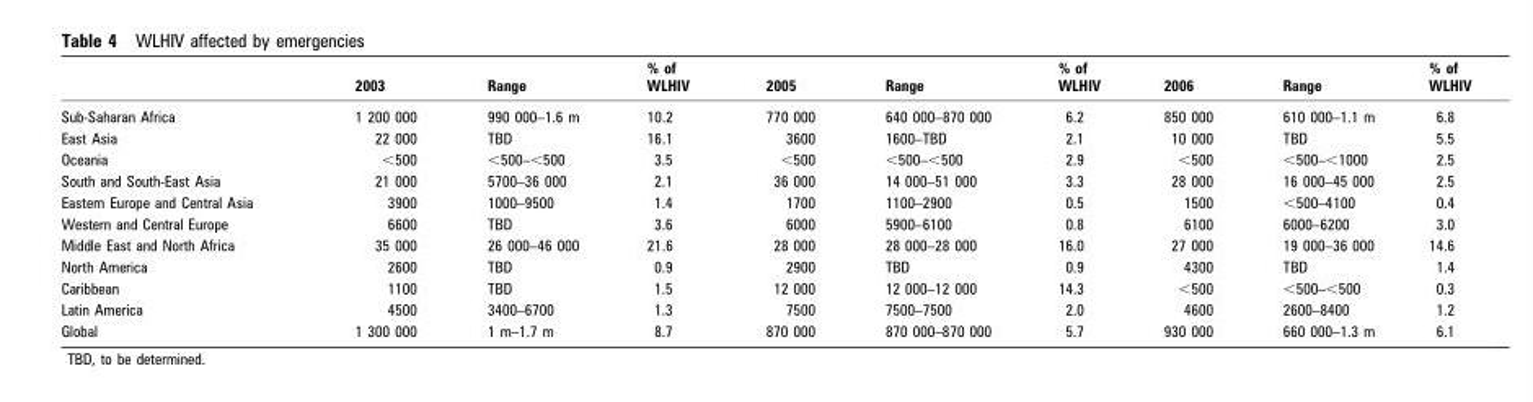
<table><thead><tr><td></td><td>2003</td><td>Range</td><td>% of WLHIV</td><td>2005</td><td>Range</td><td>% of WLHIV</td><td>2006</td><td>Range</td><td>% of WLHIV</td></tr></thead><tbody><tr><td>Sub-Saharan Africa</td><td>1 200 000</td><td>990 000–1.6 m</td><td>10.2</td><td>770 000</td><td>640 000–870 000</td><td>6.2</td><td>850 000</td><td>610 000–1.1 m</td><td>6.8</td></tr><tr><td>East Asia</td><td>22 000</td><td>TBD</td><td>16.1</td><td>3600</td><td>1600–TBD</td><td>2.1</td><td>10 000</td><td>TBD</td><td>5.5</td></tr><tr><td>Oceania</td><td>&lt;500</td><td>&lt;500–&lt;500</td><td>3.5</td><td>&lt;500</td><td>&lt;500–&lt;500</td><td>2.9</td><td>&lt;500</td><td>&lt;500–&lt;1000</td><td>2.5</td></tr><tr><td>South and South-East Asia</td><td>21 000</td><td>5700–36 000</td><td>2.1</td><td>36 000</td><td>14 000–51 000</td><td>3.3</td><td>28 000</td><td>16 000–45 000</td><td>2.5</td></tr><tr><td>Eastern Europe and Central Asia</td><td>3900</td><td>1000–9500</td><td>1.4</td><td>1700</td><td>1100–2900</td><td>0.5</td><td>1500</td><td>&lt;500–4100</td><td>0.4</td></tr><tr><td>Western and Central Europe</td><td>6600</td><td>TBD</td><td>3.6</td><td>6000</td><td>5900–6100</td><td>0.8</td><td>6100</td><td>6000–6200</td><td>3.0</td></tr><tr><td>Middle East and North Africa</td><td>35 000</td><td>26 000–46 000</td><td>21.6</td><td>28 000</td><td>28 000–28 000</td><td>16.0</td><td>27 000</td><td>19 000–36 000</td><td>14.6</td></tr><tr><td>North America</td><td>2600</td><td>TBD</td><td>0.9</td><td>2900</td><td>TBD</td><td>0.9</td><td>4300</td><td>TBD</td><td>1.4</td></tr><tr><td>Caribbean</td><td>1100</td><td>TBD</td><td>1.5</td><td>12 000</td><td>12 000–12 000</td><td>14.3</td><td>&lt;500</td><td>&lt;500–&lt;500</td><td>0.3</td></tr><tr><td>Latin America</td><td>4500</td><td>3400–6700</td><td>1.3</td><td>7500</td><td>7500–7500</td><td>2.0</td><td>4600</td><td>2600–8400</td><td>1.2</td></tr><tr><td>Global</td><td>1 300 000</td><td>1 m–1.7 m</td><td>8.7</td><td>870 000</td><td>870 000–870 000</td><td>5.7</td><td>930 000</td><td>660 000–1.3 m</td><td>6.1</td></tr></tbody></table>